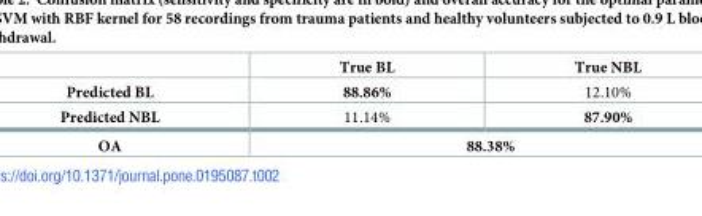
<table><thead><tr><td></td><td>True BL</td><td>True NBL</td></tr></thead><tbody><tr><td>Predicted BL</td><td>88.86%</td><td>12.10%</td></tr><tr><td>Predicted NBL</td><td>11.14%</td><td>87.90%</td></tr><tr><td>OA</td><td colspan="2">88.38%</td></tr></tbody></table>